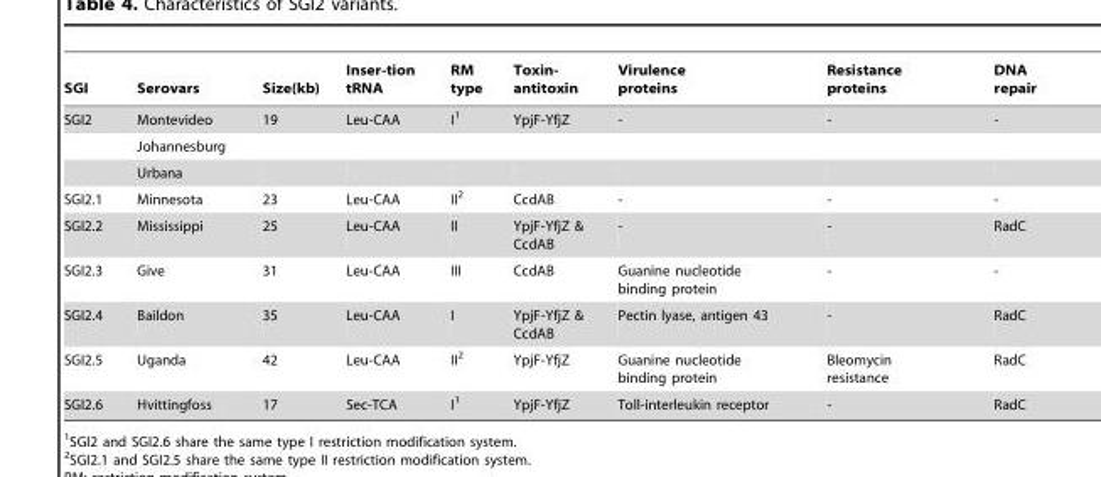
<table><thead><tr><td>SGI</td><td>Serovars</td><td>Size(kb)</td><td>Inser-tion tRNA</td><td>RM type</td><td>Toxin- antitoxin</td><td>Virulence proteins</td><td>Resistance proteins</td><td>DNA repair</td></tr></thead><tbody><tr><td rowspan="3">SGI2</td><td>Montevideo</td><td>19</td><td>Leu-CAA</td><td>I<sup>1</sup></td><td>YpjF-YfjZ</td><td>-</td><td>-</td><td>-</td></tr><tr><td>Johannesburg</td><td></td><td></td><td></td><td></td><td></td><td></td><td></td></tr><tr><td>Urbana</td><td></td><td></td><td></td><td></td><td></td><td></td><td></td></tr><tr><td>SGI2.1</td><td>Minnesota</td><td>23</td><td>Leu-CAA</td><td>II<sup>2</sup></td><td>CcdAB</td><td>-</td><td>-</td><td>-</td></tr><tr><td>SGI2.2</td><td>Mississippi</td><td>25</td><td>Leu-CAA</td><td>II</td><td>YpjF-YfjZ &amp; CcdAB</td><td>-</td><td>-</td><td>RadC</td></tr><tr><td>SGI2.3</td><td>Give</td><td>31</td><td>Leu-CAA</td><td>III</td><td>CcdAB</td><td>Guanine nucleotide binding protein</td><td>-</td><td>-</td></tr><tr><td>SGI2.4</td><td>Baildon</td><td>35</td><td>Leu-CAA</td><td>I</td><td>YpjF-YfjZ &amp; CcdAB</td><td>Pectin lyase, antigen 43</td><td>-</td><td>RadC</td></tr><tr><td>SGI2.5</td><td>Uganda</td><td>42</td><td>Leu-CAA</td><td>II<sup>2</sup></td><td>YpjF-YfjZ</td><td>Guanine nucleotide binding protein</td><td>Bleomycin resistance</td><td>RadC</td></tr><tr><td>SGI2.6</td><td>Hvittingfoss</td><td>17</td><td>Sec-TCA</td><td>I<sup>1</sup></td><td>YpjF-YfjZ</td><td>Toll-interleukin receptor</td><td>-</td><td>RadC</td></tr></tbody></table>